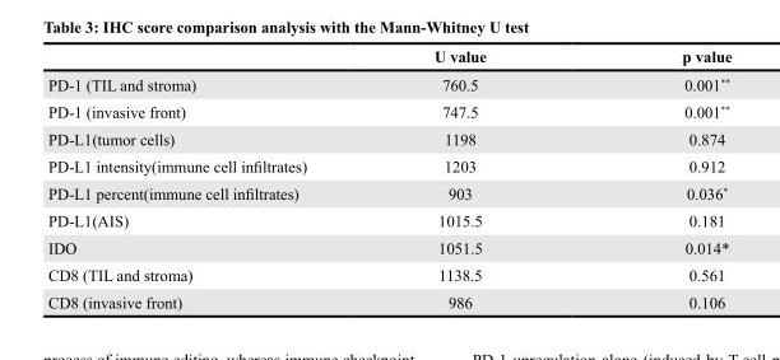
<table><thead><tr><td></td><td>U value</td><td>p value</td></tr></thead><tbody><tr><td>PD-1 (TIL and stroma)</td><td>760.5</td><td>0.001**</td></tr><tr><td>PD-1 (invasive front)</td><td>747.5</td><td>0.001**</td></tr><tr><td>PD-L1(tumor cells)</td><td>1198</td><td>0.874</td></tr><tr><td>PD-L1 intensity(immune cell infiltrates)</td><td>1203</td><td>0.912</td></tr><tr><td>PD-L1 percent(immune cell infiltrates)</td><td>903</td><td>0.036*</td></tr><tr><td>PD-L1(AIS)</td><td>1015.5</td><td>0.181</td></tr><tr><td>IDO</td><td>1051.5</td><td>0.014*</td></tr><tr><td>CD8 (TIL and stroma)</td><td>1138.5</td><td>0.561</td></tr><tr><td>CD8 (invasive front)</td><td>986</td><td>0.106</td></tr></tbody></table>